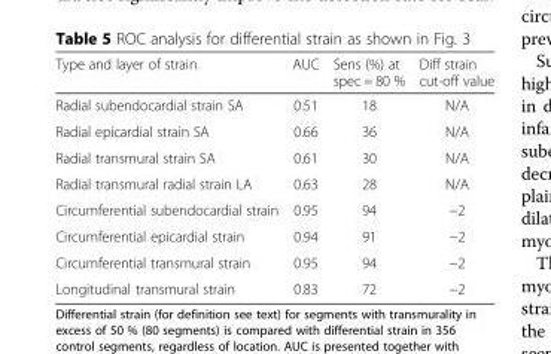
<table><thead><tr><td>Type and layer of strain</td><td>AUC</td><td>Sens (%) at spec = 80 %</td><td>Diff strain cut-off value</td></tr></thead><tbody><tr><td>Radial subendocardial strain SA</td><td>0.51</td><td>18</td><td>N/A</td></tr><tr><td>Radial epicardial strain SA</td><td>0.66</td><td>36</td><td>N/A</td></tr><tr><td>Radial transmural strain SA</td><td>0.61</td><td>30</td><td>N/A</td></tr><tr><td>Radial transmural radial strain LA</td><td>0.63</td><td>28</td><td>N/A</td></tr><tr><td>Circumferential subendocardial strain</td><td>0.95</td><td>94</td><td>−2</td></tr><tr><td>Circumferential epicardial strain</td><td>0.94</td><td>91</td><td>−2</td></tr><tr><td>Circumferential transmural strain</td><td>0.95</td><td>94</td><td>−2</td></tr><tr><td>Longitudinal transmural strain</td><td>0.83</td><td>72</td><td>−2</td></tr></tbody></table>